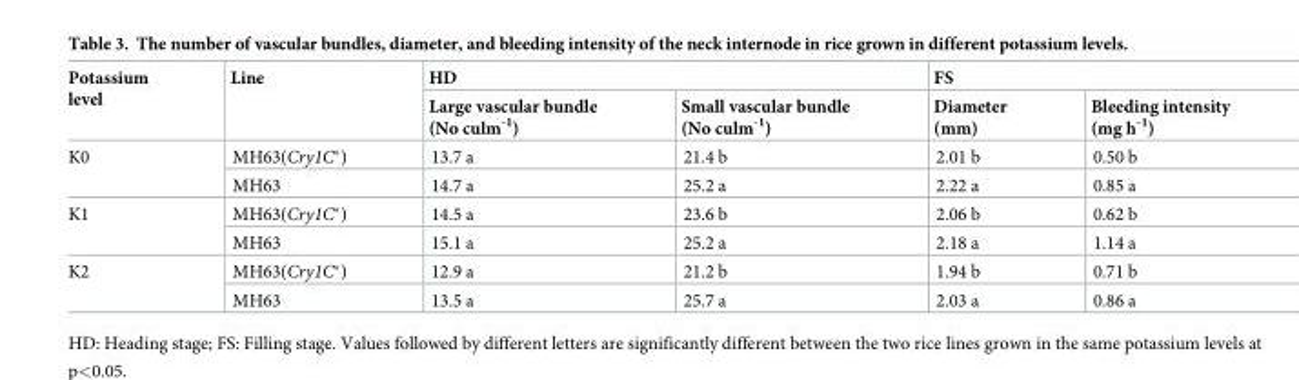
<table><thead><tr><td rowspan="2">Potassium level</td><td rowspan="2">Line</td><td colspan="2">HD</td><td colspan="2">FS</td></tr><tr><td>Large vascular bundle (No culm<sup>-1</sup>)</td><td>Small vascular bundle (No culm<sup>-1</sup>)</td><td>Diameter (mm)</td><td>Bleeding intensity (mg h<sup>-1</sup>)</td></tr></thead><tbody><tr><td rowspan="2">K0</td><td>MH63(Cry1C*)</td><td>13.7 a</td><td>21.4 b</td><td>2.01 b</td><td>0.50 b</td></tr><tr><td>MH63</td><td>14.7 a</td><td>25.2 a</td><td>2.22 a</td><td>0.85 a</td></tr><tr><td rowspan="2">K1</td><td>MH63(Cry1C*)</td><td>14.5 a</td><td>23.6 b</td><td>2.06 b</td><td>0.62 b</td></tr><tr><td>MH63</td><td>15.1 a</td><td>25.2 a</td><td>2.18 a</td><td>1.14 a</td></tr><tr><td rowspan="2">K2</td><td>MH63(Cry1C*)</td><td>12.9 a</td><td>21.2 b</td><td>1.94 b</td><td>0.71 b</td></tr><tr><td>MH63</td><td>13.5 a</td><td>25.7 a</td><td>2.03 a</td><td>0.86 a</td></tr></tbody></table>